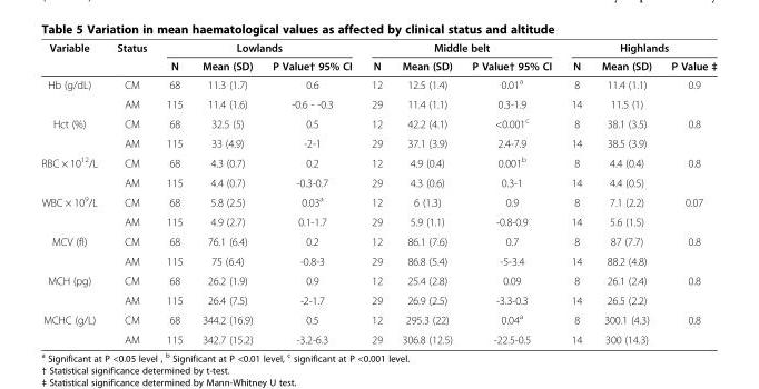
<table><thead><tr><td rowspan="2">Variable</td><td rowspan="2">Status</td><td colspan="3">Lowlands</td><td colspan="3">Middle belt</td><td colspan="3">Highlands</td></tr><tr><td>N</td><td>Mean (SD)</td><td>P Value† 95% CI</td><td>N</td><td>Mean (SD)</td><td>P Value† 95% CI</td><td>N</td><td>Mean (SD)</td><td>P Value ‡</td></tr></thead><tbody><tr><td rowspan="2">Hb (g/dL)</td><td>CM</td><td>68</td><td>11.3 (1.7)</td><td>0.6</td><td>12</td><td>12.5 (1.4)</td><td>0.01<sup>a</sup></td><td>8</td><td>11.4 (1.1)</td><td>0.9</td></tr><tr><td>AM</td><td>115</td><td>11.4 (1.6)</td><td>-0.6 - -0.3</td><td>29</td><td>11.4 (1.1)</td><td>0.3-1.9</td><td>14</td><td>11.5 (1)</td><td></td></tr><tr><td rowspan="2">Hct (%)</td><td>CM</td><td>68</td><td>32.5 (5)</td><td>0.5</td><td>12</td><td>42.2 (4.1)</td><td>&lt;0.001<sup>c</sup></td><td>8</td><td>38.1 (3.5)</td><td>0.8</td></tr><tr><td>AM</td><td>115</td><td>33 (4.9)</td><td>-2-1</td><td>29</td><td>37.1 (3.9)</td><td>2.4-7.9</td><td>14</td><td>38.5 (3.9)</td><td></td></tr><tr><td rowspan="2">RBC × 10<sup>12</sup>/L</td><td>CM</td><td>68</td><td>4.3 (0.7)</td><td>0.2</td><td>12</td><td>4.9 (0.4)</td><td>0.001<sup>b</sup></td><td>8</td><td>4.4 (0.4)</td><td>0.8</td></tr><tr><td>AM</td><td>115</td><td>4.4 (0.7)</td><td>-0.3-0.7</td><td>29</td><td>4.3 (0.6)</td><td>0.3-1</td><td>14</td><td>4.4 (0.5)</td><td></td></tr><tr><td rowspan="2">WBC × 10<sup>9</sup>/L</td><td>CM</td><td>68</td><td>5.8 (2.5)</td><td>0.03<sup>a</sup></td><td>12</td><td>6 (1.3)</td><td>0.9</td><td>8</td><td>7.1 (2.2)</td><td>0.07</td></tr><tr><td>AM</td><td>115</td><td>4.9 (2.7)</td><td>0.1-1.7</td><td>29</td><td>5.9 (1.1)</td><td>-0.8-0.9</td><td>14</td><td>5.6 (1.5)</td><td></td></tr><tr><td rowspan="2">MCV (fl)</td><td>CM</td><td>68</td><td>76.1 (6.4)</td><td>0.2</td><td>12</td><td>86.1 (7.6)</td><td>0.7</td><td>8</td><td>87 (7.7)</td><td>0.8</td></tr><tr><td>AM</td><td>115</td><td>75 (6.4)</td><td>-0.8-3</td><td>29</td><td>86.8 (5.4)</td><td>-5-3.4</td><td>14</td><td>88.2 (4.8)</td><td></td></tr><tr><td rowspan="2">MCH (pg)</td><td>CM</td><td>68</td><td>26.2 (1.9)</td><td>0.9</td><td>12</td><td>25.4 (2.8)</td><td>0.09</td><td>8</td><td>26.1 (2.4)</td><td>0.8</td></tr><tr><td>AM</td><td>115</td><td>26.4 (7.5)</td><td>-2-1.7</td><td>29</td><td>26.9 (2.5)</td><td>-3.3-0.3</td><td>14</td><td>26.5 (2.2)</td><td></td></tr><tr><td rowspan="2">MCHC (g/L)</td><td>CM</td><td>68</td><td>344.2 (16.9)</td><td>0.5</td><td>12</td><td>295.3 (22)</td><td>0.04<sup>a</sup></td><td>8</td><td>300.1 (4.3)</td><td>0.8</td></tr><tr><td>AM</td><td>115</td><td>342.7 (15.2)</td><td>-3.2-6.3</td><td>29</td><td>306.8 (12.5)</td><td>-22.5-0.5</td><td>14</td><td>300 (14.3)</td><td></td></tr></tbody></table>